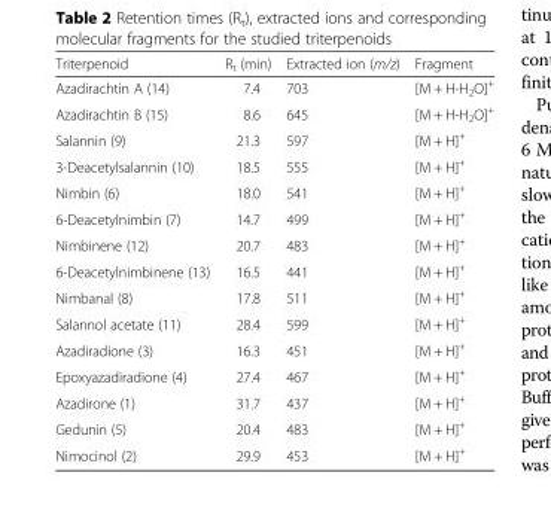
<table><thead><tr><td>Triterpenoid</td><td>R<sub>t</sub> (min)</td><td>Extracted ion (m/z)</td><td>Fragment</td></tr></thead><tbody><tr><td>Azadirachtin A (14)</td><td>7.4</td><td>703</td><td>[M + H-H<sub>2</sub>O]<sup>+</sup></td></tr><tr><td>Azadirachtin B (15)</td><td>8.6</td><td>645</td><td>[M + H-H<sub>2</sub>O]<sup>+</sup></td></tr><tr><td>Salannin (9)</td><td>21.3</td><td>597</td><td>[M + H]<sup>+</sup></td></tr><tr><td>3-Deacetylsalannin (10)</td><td>18.5</td><td>555</td><td>[M + H]<sup>+</sup></td></tr><tr><td>Nimbin (6)</td><td>18.0</td><td>541</td><td>[M + H]<sup>+</sup></td></tr><tr><td>6-Deacetylnimbin (7)</td><td>14.7</td><td>499</td><td>[M + H]<sup>+</sup></td></tr><tr><td>Nimbinene (12)</td><td>20.7</td><td>483</td><td>[M + H]<sup>+</sup></td></tr><tr><td>6-Deacetylnimbinene (13)</td><td>16.5</td><td>441</td><td>[M + H]<sup>+</sup></td></tr><tr><td>Nimbanal (8)</td><td>17.8</td><td>511</td><td>[M + H]<sup>+</sup></td></tr><tr><td>Salannol acetate (11)</td><td>28.4</td><td>599</td><td>[M + H]<sup>+</sup></td></tr><tr><td>Azadiradione (3)</td><td>16.3</td><td>451</td><td>[M + H]<sup>+</sup></td></tr><tr><td>Epoxyazadiradione (4)</td><td>27.4</td><td>467</td><td>[M + H]<sup>+</sup></td></tr><tr><td>Azadirone (1)</td><td>31.7</td><td>437</td><td>[M + H]<sup>+</sup></td></tr><tr><td>Gedunin (5)</td><td>20.4</td><td>483</td><td>[M + H]<sup>+</sup></td></tr><tr><td>Nimocinol (2)</td><td>29.9</td><td>453</td><td>[M + H]<sup>+</sup></td></tr></tbody></table>